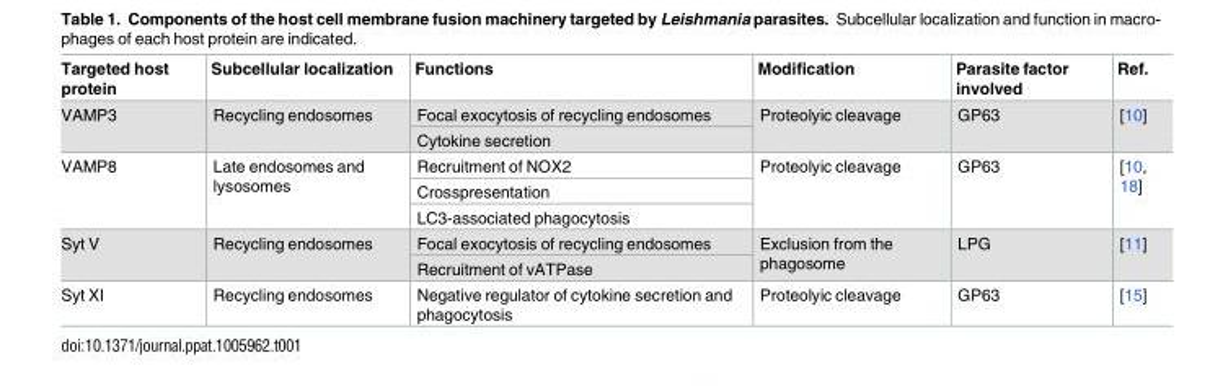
<table><thead><tr><td>Targeted host protein</td><td>Subcellular localization</td><td>Functions</td><td>Modification</td><td>Parasite factor involved</td><td>Ref.</td></tr></thead><tbody><tr><td rowspan="2">VAMP3</td><td rowspan="2">Recycling endosomes</td><td>Focal exocytosis of recycling endosomes</td><td rowspan="2">Proteolyic cleavage</td><td rowspan="2">GP63</td><td rowspan="2">[10]</td></tr><tr><td>Cytokine secretion</td></tr><tr><td rowspan="3">VAMP8</td><td rowspan="3">Late endosomes and lysosomes</td><td>Recruitment of NOX2</td><td rowspan="3">Proteolyic cleavage</td><td rowspan="3">GP63</td><td rowspan="3">[10, 18]</td></tr><tr><td>Crosspresentation</td></tr><tr><td>LC3-associated phagocytosis</td></tr><tr><td rowspan="2">Syt V</td><td rowspan="2">Recycling endosomes</td><td>Focal exocytosis of recycling endosomes</td><td rowspan="2">Exclusion from the phagosome</td><td rowspan="2">LPG</td><td rowspan="2">[11]</td></tr><tr><td>Recruitment of vATPase</td></tr><tr><td>Syt XI</td><td>Recycling endosomes</td><td>Negative regulator of cytokine secretion and phagocytosis</td><td>Proteolyic cleavage</td><td>GP63</td><td>[15]</td></tr></tbody></table>